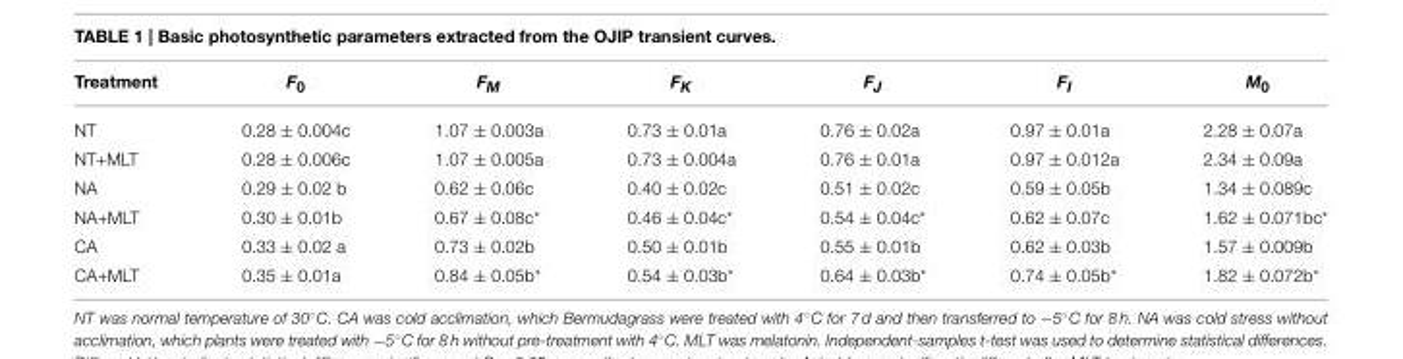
<table><thead><tr><td>Treatment</td><td>F<sub>0</sub></td><td>F<sub>M</sub></td><td>F<sub>K</sub></td><td>F<sub>J</sub></td><td>F<sub>I</sub></td><td>M<sub>0</sub></td></tr></thead><tbody><tr><td>NT</td><td>0.28 ± 0.004c</td><td>1.07 ± 0.003a</td><td>0.73 ± 0.01a</td><td>0.76 ± 0.02a</td><td>0.97 ± 0.01a</td><td>2.28 ± 0.07a</td></tr><tr><td>NT+MLT</td><td>0.28 ± 0.006c</td><td>1.07 ± 0.005a</td><td>0.73 ± 0.004a</td><td>0.76 ± 0.01a</td><td>0.97 ± 0.012a</td><td>2.34 ± 0.09a</td></tr><tr><td>NA</td><td>0.29 ± 0.02 b</td><td>0.62 ± 0.06c</td><td>0.40 ± 0.02c</td><td>0.51 ± 0.02c</td><td>0.59 ± 0.05b</td><td>1.34 ± 0.089c</td></tr><tr><td>NA+MLT</td><td>0.30 ± 0.01b</td><td>0.67 ± 0.08c*</td><td>0.46 ± 0.04c*</td><td>0.54 ± 0.04c*</td><td>0.62 ± 0.07c</td><td>1.62 ± 0.071bc*</td></tr><tr><td>CA</td><td>0.33 ± 0.02 a</td><td>0.73 ± 0.02b</td><td>0.50 ± 0.01b</td><td>0.55 ± 0.01b</td><td>0.62 ± 0.03b</td><td>1.57 ± 0.009b</td></tr><tr><td>CA+MLT</td><td>0.35 ± 0.01a</td><td>0.84 ± 0.05b*</td><td>0.54 ± 0.03b*</td><td>0.64 ± 0.03b*</td><td>0.74 ± 0.05b*</td><td>1.82 ± 0.072b*</td></tr></tbody></table>